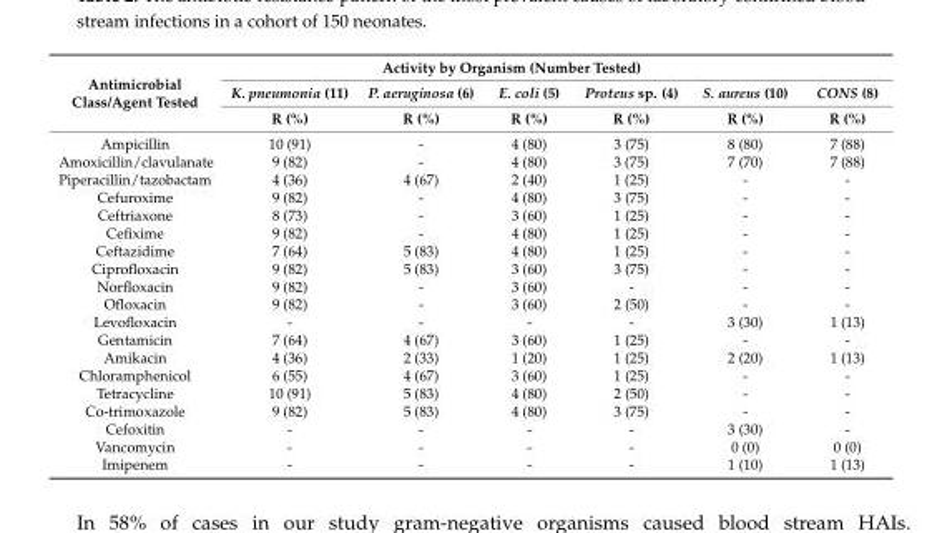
<table><thead><tr><td rowspan="3">Antimicrobial Class/Agent Tested</td><td colspan="5">Activity by Organism (Number Tested)</td><td rowspan="3">CONS (8) R (%)</td></tr><tr><td rowspan="2">K. pneumonia (11) R (%)</td><td rowspan="2">P. aeruginosa (6) R (%)</td><td rowspan="2">E. coli (5) R (%)</td><td rowspan="2">Proteus sp. (4) R (%)</td><td rowspan="2">S. aureus (10) R (%)</td></tr><tr></tr></thead><tbody><tr><td>Ampicillin</td><td>10 (91)</td><td>-</td><td>4 (80)</td><td>3 (75)</td><td>8 (80)</td><td>7 (88)</td></tr><tr><td>Amoxicillin/clavulanate</td><td>9 (82)</td><td>-</td><td>4 (80)</td><td>3 (75)</td><td>7 (70)</td><td>7 (88)</td></tr><tr><td>Piperacillin/tazobactam</td><td>4 (36)</td><td>4 (67)</td><td>2 (40)</td><td>1 (25)</td><td>-</td><td>-</td></tr><tr><td>Cefuroxime</td><td>9 (82)</td><td>-</td><td>4 (80)</td><td>3 (75)</td><td>-</td><td>-</td></tr><tr><td>Ceftriaxone</td><td>8 (73)</td><td>-</td><td>3 (60)</td><td>1 (25)</td><td>-</td><td>-</td></tr><tr><td>Cefixime</td><td>9 (82)</td><td>-</td><td>4 (80)</td><td>1 (25)</td><td>-</td><td>-</td></tr><tr><td>Ceftazidime</td><td>7 (64)</td><td>5 (83)</td><td>4 (80)</td><td>1 (25)</td><td>-</td><td>-</td></tr><tr><td>Ciprofloxacin</td><td>9 (82)</td><td>5 (83)</td><td>3 (60)</td><td>3 (75)</td><td>-</td><td>-</td></tr><tr><td>Norfloxacin</td><td>9 (82)</td><td>-</td><td>3 (60)</td><td>-</td><td>-</td><td>-</td></tr><tr><td>Ofloxacin</td><td>9 (82)</td><td>-</td><td>3 (60)</td><td>2 (50)</td><td>-</td><td>-</td></tr><tr><td>Levofloxacin</td><td>-</td><td>-</td><td>-</td><td>-</td><td>3 (30)</td><td>1 (13)</td></tr><tr><td>Gentamicin</td><td>7 (64)</td><td>4 (67)</td><td>3 (60)</td><td>1 (25)</td><td>-</td><td>-</td></tr><tr><td>Amikacin</td><td>4 (36)</td><td>2 (33)</td><td>1 (20)</td><td>1 (25)</td><td>2 (20)</td><td>1 (13)</td></tr><tr><td>Chloramphenicol</td><td>6 (55)</td><td>4 (67)</td><td>3 (60)</td><td>1 (25)</td><td>-</td><td>-</td></tr><tr><td>Tetracycline</td><td>10 (91)</td><td>5 (83)</td><td>4 (80)</td><td>2 (50)</td><td>-</td><td>-</td></tr><tr><td>Co-trimoxazole</td><td>9 (82)</td><td>5 (83)</td><td>4 (80)</td><td>3 (75)</td><td>-</td><td>-</td></tr><tr><td>Cefoxitin</td><td>-</td><td>-</td><td>-</td><td>-</td><td>3 (30)</td><td>-</td></tr><tr><td>Vancomycin</td><td>-</td><td>-</td><td>-</td><td>-</td><td>0 (0)</td><td>0 (0)</td></tr><tr><td>Imipenem</td><td>-</td><td>-</td><td>-</td><td>-</td><td>1 (10)</td><td>1 (13)</td></tr></tbody></table>